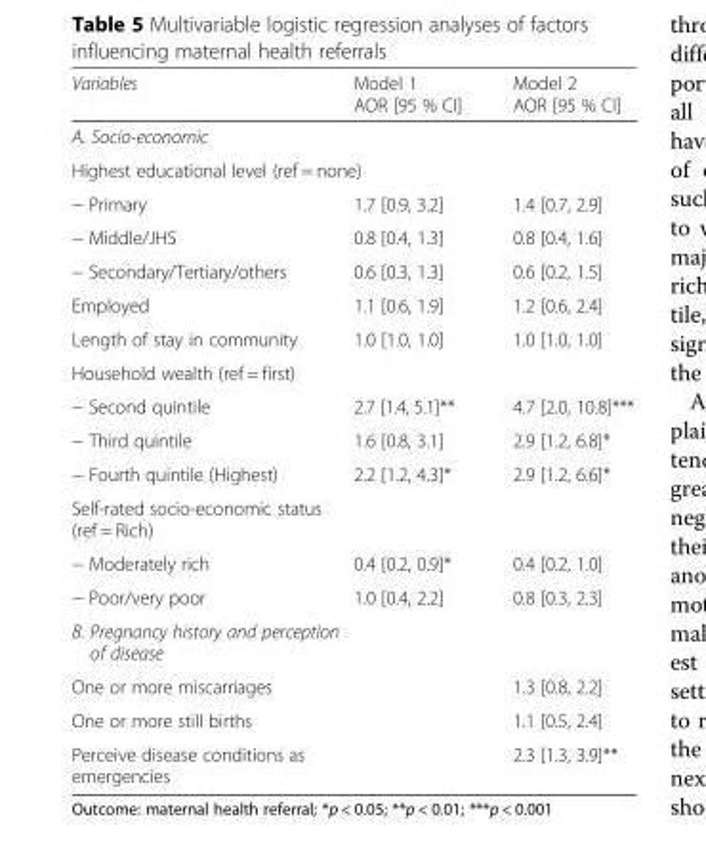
<table><thead><tr><td>Variables</td><td>Model 1 AOR [95 % CI]</td><td>Model 2 AOR [95 % CI]</td></tr></thead><tbody><tr><td colspan="3">A. Socio-economic</td></tr><tr><td colspan="3">Highest educational level (ref = none)</td></tr><tr><td>− Primary</td><td>1.7 [0.9, 3.2]</td><td>1.4 [0.7, 2.9]</td></tr><tr><td>− Middle/JHS</td><td>0.8 [0.4, 1.3]</td><td>0.8 [0.4, 1.6]</td></tr><tr><td>− Secondary/Tertiary/others</td><td>0.6 [0.3, 1.3]</td><td>0.6 [0.2, 1.5]</td></tr><tr><td>Employed</td><td>1.1 [0.6, 1.9]</td><td>1.2 [0.6, 2.4]</td></tr><tr><td>Length of stay in community</td><td>1.0 [1.0, 1.0]</td><td>1.0 [1.0, 1.0]</td></tr><tr><td colspan="3">Household wealth (ref = first)</td></tr><tr><td>− Second quintile</td><td>2.7 [1.4, 5.1]**</td><td>4.7 [2.0, 10.8]***</td></tr><tr><td>− Third quintile</td><td>1.6 [0.8, 3.1]</td><td>2.9 [1.2, 6.8]*</td></tr><tr><td>− Fourth quintile (Highest)</td><td>2.2 [1.2, 4.3]*</td><td>2.9 [1.2, 6.6]*</td></tr><tr><td colspan="3">Self-rated socio-economic status (ref = Rich)</td></tr><tr><td>− Moderately rich</td><td>0.4 [0.2, 0.9]*</td><td>0.4 [0.2, 1.0]</td></tr><tr><td>− Poor/very poor</td><td>1.0 [0.4, 2.2]</td><td>0.8 [0.3, 2.3]</td></tr><tr><td colspan="3">B. Pregnancy history and perception of disease</td></tr><tr><td>One or more miscarriages</td><td></td><td>1.3 [0.8, 2.2]</td></tr><tr><td>One or more still births</td><td></td><td>1.1 [0.5, 2.4]</td></tr><tr><td>Perceive disease conditions as emergencies</td><td></td><td>2.3 [1.3, 3.9]**</td></tr></tbody></table>